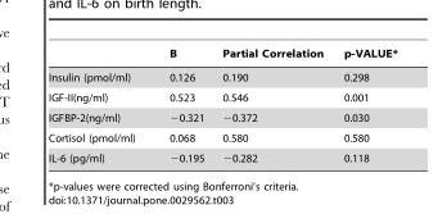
<table><thead><tr><td></td><td>B</td><td>Partial Correlation</td><td>p-VALUE*</td></tr></thead><tbody><tr><td>Insulin (pmol/ml)</td><td>0.126</td><td>0.190</td><td>0.298</td></tr><tr><td>IGF-II(ng/ml)</td><td>0.523</td><td>0.546</td><td>0.001</td></tr><tr><td>IGFBP-2(ng/ml)</td><td>−0.321</td><td>−0.372</td><td>0.030</td></tr><tr><td>Cortisol (pmol/ml)</td><td>0.068</td><td>0.580</td><td>0.580</td></tr><tr><td>IL-6 (pg/ml)</td><td>−0.195</td><td>−0.282</td><td>0.118</td></tr></tbody></table>